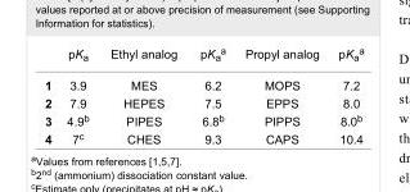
<table><thead><tr><td></td><td>pK<sub>a</sub></td><td>Ethyl analog</td><td>pK<sub>a</sub><sup>a</sup></td><td>Propyl analog</td><td>pK<sub>a</sub><sup>a</sup></td></tr></thead><tbody><tr><td>1</td><td>3.9</td><td>MES</td><td>6.2</td><td>MOPS</td><td>7.2</td></tr><tr><td>2</td><td>7.9</td><td>HEPES</td><td>7.5</td><td>EPPS</td><td>8.0</td></tr><tr><td>3</td><td>4.9<sup>b</sup></td><td>PIPES</td><td>6.8<sup>b</sup></td><td>PIPPS</td><td>8.0<sup>b</sup></td></tr><tr><td>4</td><td>7<sup>c</sup></td><td>CHES</td><td>9.3</td><td>CAPS</td><td>10.4</td></tr></tbody></table>